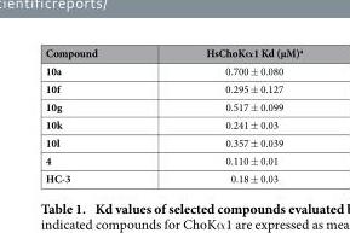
<table><thead><tr><td>Compound</td><td>HsChoKα1 Kd (μM)<sup>a</sup></td></tr></thead><tbody><tr><td>10a</td><td>0.700 ± 0.080</td></tr><tr><td>10f</td><td>0.295 ± 0.127</td></tr><tr><td>10g</td><td>0.517 ± 0.099</td></tr><tr><td>10k</td><td>0.241 ± 0.03</td></tr><tr><td>10l</td><td>0.357 ± 0.039</td></tr><tr><td>4</td><td>0.110 ± 0.01</td></tr><tr><td>HC-3</td><td>0.18 ± 0.03</td></tr></tbody></table>